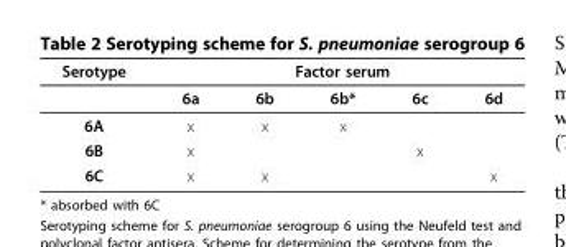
<table><thead><tr><td rowspan="2">Serotype</td><td colspan="5">Factor serum</td></tr><tr><td>6a</td><td>6b</td><td>6b*</td><td>6c</td><td>6d</td></tr></thead><tbody><tr><td>6A</td><td>x</td><td>x</td><td>x</td><td></td><td></td></tr><tr><td>6B</td><td>x</td><td></td><td></td><td>x</td><td></td></tr><tr><td>6C</td><td>x</td><td>x</td><td></td><td></td><td>x</td></tr></tbody></table>